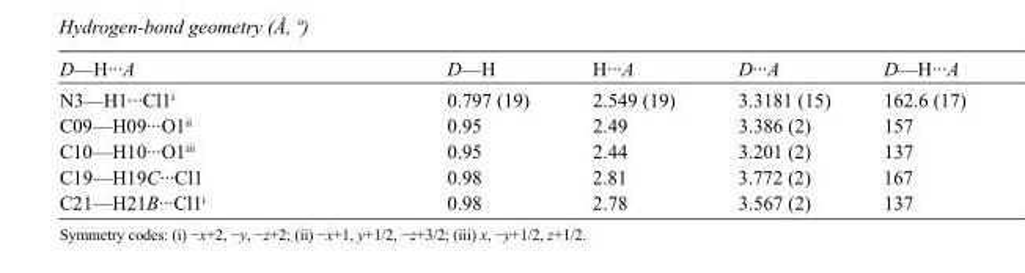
<table><tbody><tr><td>D—H···A</td><td>D—H</td><td>H···A</td><td>D···A</td><td>D—H···A</td></tr><tr><td>N3—H1···Cl1<sup>i</sup></td><td>0.797 (19)</td><td>2.549 (19)</td><td>3.3181 (15)</td><td>162.6 (17)</td></tr><tr><td>C09—H09···O1<sup>ii</sup></td><td>0.95</td><td>2.49</td><td>3.386 (2)</td><td>157</td></tr><tr><td>C10—H10···O1<sup>iii</sup></td><td>0.95</td><td>2.44</td><td>3.201 (2)</td><td>137</td></tr><tr><td>C19—H19C···Cl1</td><td>0.98</td><td>2.81</td><td>3.772 (2)</td><td>167</td></tr><tr><td>C21—H21B···Cl1<sup>i</sup></td><td>0.98</td><td>2.78</td><td>3.567 (2)</td><td>137</td></tr></tbody></table>